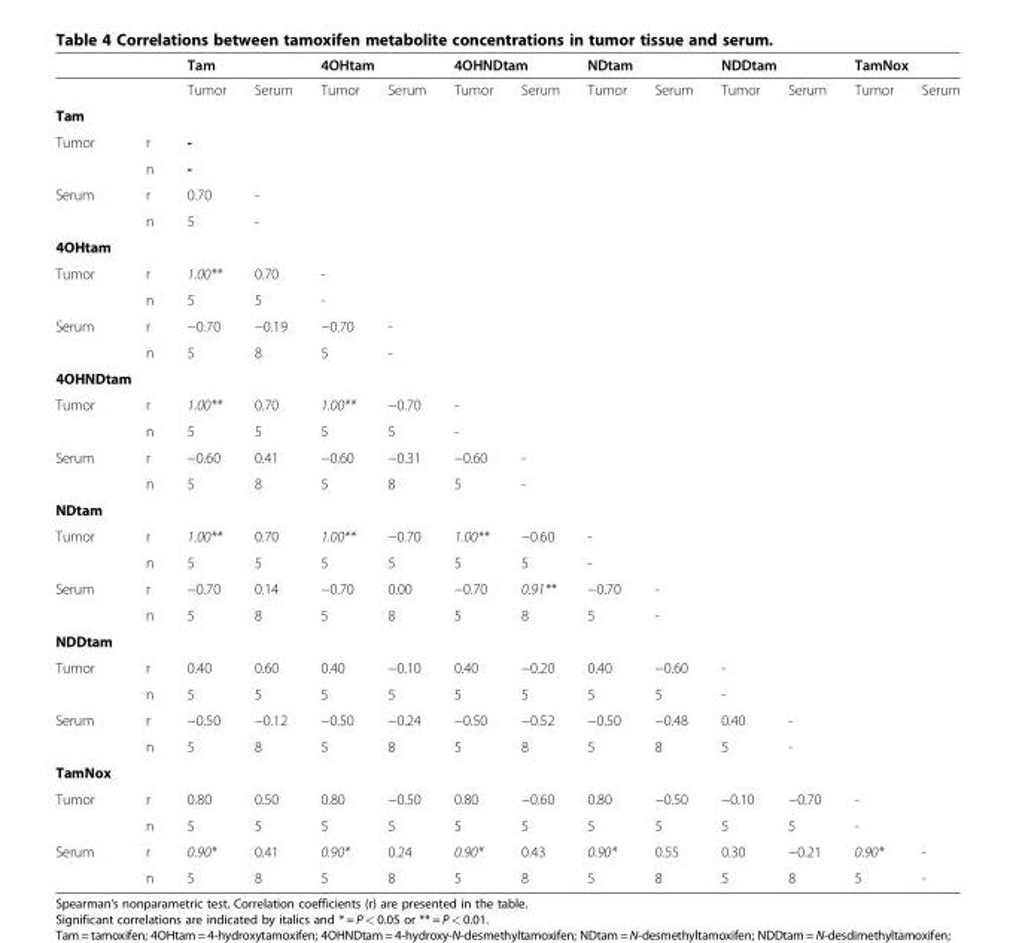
<table><thead><tr><td rowspan="2"></td><td rowspan="2"></td><td colspan="2">Tam</td><td colspan="2">4OHtam</td><td colspan="2">4OHNDtam</td><td colspan="2">NDtam</td><td colspan="2">NDDtam</td><td colspan="2">TamNox</td></tr><tr><td>Tumor</td><td>Serum</td><td>Tumor</td><td>Serum</td><td>Tumor</td><td>Serum</td><td>Tumor</td><td>Serum</td><td>Tumor</td><td>Serum</td><td>Tumor</td><td>Serum</td></tr></thead><tbody><tr><td colspan="14">Tam</td></tr><tr><td rowspan="2">Tumor</td><td>r</td><td>-</td><td></td><td></td><td></td><td></td><td></td><td></td><td></td><td></td><td></td><td></td><td></td></tr><tr><td>n</td><td>-</td><td></td><td></td><td></td><td></td><td></td><td></td><td></td><td></td><td></td><td></td><td></td></tr><tr><td rowspan="2">Serum</td><td>r</td><td>0.70</td><td>-</td><td></td><td></td><td></td><td></td><td></td><td></td><td></td><td></td><td></td><td></td></tr><tr><td>n</td><td>5</td><td>-</td><td></td><td></td><td></td><td></td><td></td><td></td><td></td><td></td><td></td><td></td></tr><tr><td colspan="14">4OHtam</td></tr><tr><td rowspan="2">Tumor</td><td>r</td><td>1.00**</td><td>0.70</td><td>-</td><td></td><td></td><td></td><td></td><td></td><td></td><td></td><td></td><td></td></tr><tr><td>n</td><td>5</td><td>5</td><td>-</td><td></td><td></td><td></td><td></td><td></td><td></td><td></td><td></td><td></td></tr><tr><td rowspan="2">Serum</td><td>r</td><td>−0.70</td><td>−0.19</td><td>−0.70</td><td>-</td><td></td><td></td><td></td><td></td><td></td><td></td><td></td><td></td></tr><tr><td>n</td><td>5</td><td>8</td><td>5</td><td>-</td><td></td><td></td><td></td><td></td><td></td><td></td><td></td><td></td></tr><tr><td colspan="14">4OHNDtam</td></tr><tr><td rowspan="2">Tumor</td><td>r</td><td>1.00**</td><td>0.70</td><td>1.00**</td><td>−0.70</td><td>-</td><td></td><td></td><td></td><td></td><td></td><td></td><td></td></tr><tr><td>n</td><td>5</td><td>5</td><td>5</td><td>5</td><td>-</td><td></td><td></td><td></td><td></td><td></td><td></td><td></td></tr><tr><td rowspan="2">Serum</td><td>r</td><td>−0.60</td><td>0.41</td><td>−0.60</td><td>−0.31</td><td>−0.60</td><td>-</td><td></td><td></td><td></td><td></td><td></td><td></td></tr><tr><td>n</td><td>5</td><td>8</td><td>5</td><td>8</td><td>5</td><td>-</td><td></td><td></td><td></td><td></td><td></td><td></td></tr><tr><td colspan="14">NDtam</td></tr><tr><td rowspan="2">Tumor</td><td>r</td><td>1.00**</td><td>0.70</td><td>1.00**</td><td>−0.70</td><td>1.00**</td><td>−0.60</td><td>-</td><td></td><td></td><td></td><td></td><td></td></tr><tr><td>n</td><td>5</td><td>5</td><td>5</td><td>5</td><td>5</td><td>5</td><td>-</td><td></td><td></td><td></td><td></td><td></td></tr><tr><td rowspan="2">Serum</td><td>r</td><td>−0.70</td><td>0.14</td><td>−0.70</td><td>0.00</td><td>−0.70</td><td>0.91**</td><td>−0.70</td><td>-</td><td></td><td></td><td></td><td></td></tr><tr><td>n</td><td>5</td><td>8</td><td>5</td><td>8</td><td>5</td><td>8</td><td>5</td><td>-</td><td></td><td></td><td></td><td></td></tr><tr><td colspan="14">NDDtam</td></tr><tr><td rowspan="2">Tumor</td><td>r</td><td>0.40</td><td>0.60</td><td>0.40</td><td>−0.10</td><td>0.40</td><td>−0.20</td><td>0.40</td><td>−0.60</td><td>-</td><td></td><td></td><td></td></tr><tr><td>n</td><td>5</td><td>5</td><td>5</td><td>5</td><td>5</td><td>5</td><td>5</td><td>5</td><td>-</td><td></td><td></td><td></td></tr><tr><td rowspan="2">Serum</td><td>r</td><td>−0.50</td><td>−0.12</td><td>−0.50</td><td>−0.24</td><td>−0.50</td><td>−0.52</td><td>−0.50</td><td>−0.48</td><td>0.40</td><td>-</td><td></td><td></td></tr><tr><td>n</td><td>5</td><td>8</td><td>5</td><td>8</td><td>5</td><td>8</td><td>5</td><td>8</td><td>5</td><td>-</td><td></td><td></td></tr><tr><td colspan="14">TamNox</td></tr><tr><td rowspan="2">Tumor</td><td>r</td><td>0.80</td><td>0.50</td><td>0.80</td><td>−0.50</td><td>0.80</td><td>−0.60</td><td>0.80</td><td>−0.50</td><td>−0.10</td><td>−0.70</td><td>-</td><td></td></tr><tr><td>n</td><td>5</td><td>5</td><td>5</td><td>5</td><td>5</td><td>5</td><td>5</td><td>5</td><td>5</td><td>5</td><td>-</td><td></td></tr><tr><td rowspan="2">Serum</td><td>r</td><td>0.90*</td><td>0.41</td><td>0.90*</td><td>0.24</td><td>0.90*</td><td>0.43</td><td>0.90*</td><td>0.55</td><td>0.30</td><td>−0.21</td><td>0.90*</td><td>-</td></tr><tr><td>n</td><td>5</td><td>8</td><td>5</td><td>8</td><td>5</td><td>8</td><td>5</td><td>8</td><td>5</td><td>8</td><td>5</td><td>-</td></tr></tbody></table>